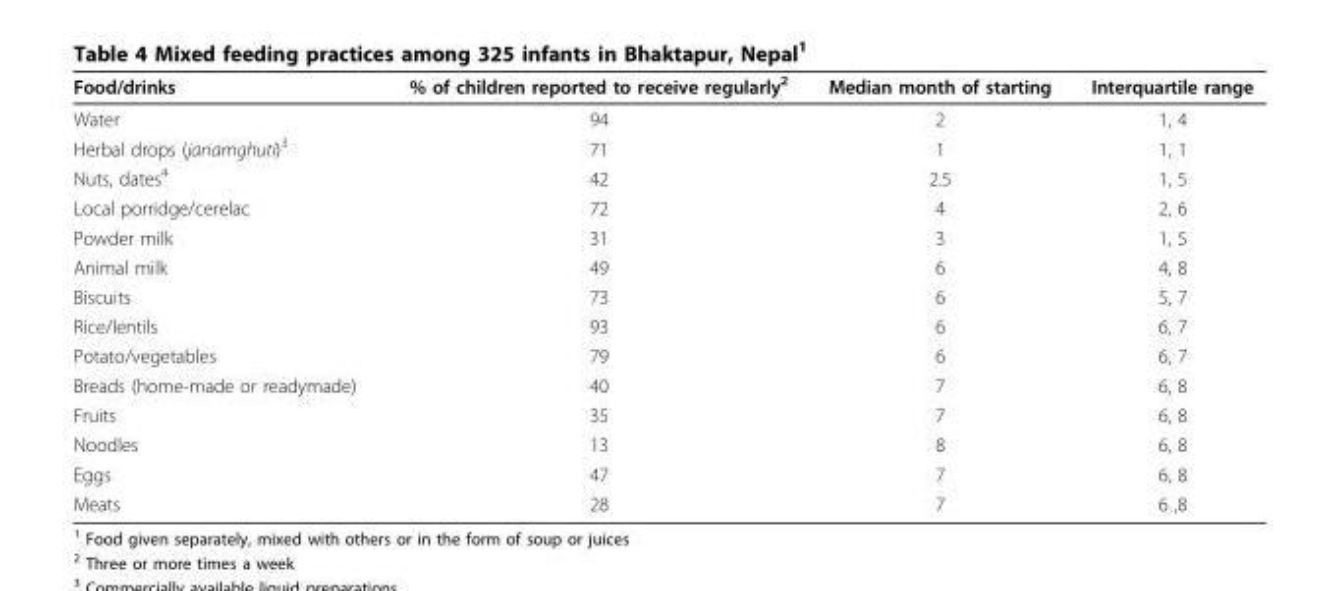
<table><thead><tr><td>Food/drinks</td><td>% of children reported to receive regularly<sup>2</sup></td><td>Median month of starting</td><td>Interquartile range</td></tr></thead><tbody><tr><td>Water</td><td>94</td><td>2</td><td>1, 4</td></tr><tr><td>Herbal drops (janamghuti)<sup>3</sup></td><td>71</td><td>1</td><td>1, 1</td></tr><tr><td>Nuts, dates<sup>4</sup></td><td>42</td><td>2.5</td><td>1, 5</td></tr><tr><td>Local porridge/cerelac</td><td>72</td><td>4</td><td>2, 6</td></tr><tr><td>Powder milk</td><td>31</td><td>3</td><td>1, 5</td></tr><tr><td>Animal milk</td><td>49</td><td>6</td><td>4, 8</td></tr><tr><td>Biscuits</td><td>73</td><td>6</td><td>5, 7</td></tr><tr><td>Rice/lentils</td><td>93</td><td>6</td><td>6, 7</td></tr><tr><td>Potato/vegetables</td><td>79</td><td>6</td><td>6, 7</td></tr><tr><td>Breads (home-made or readymade)</td><td>40</td><td>7</td><td>6, 8</td></tr><tr><td>Fruits</td><td>35</td><td>7</td><td>6, 8</td></tr><tr><td>Noodles</td><td>13</td><td>8</td><td>6, 8</td></tr><tr><td>Eggs</td><td>47</td><td>7</td><td>6, 8</td></tr><tr><td>Meats</td><td>28</td><td>7</td><td>6 ,8</td></tr></tbody></table>